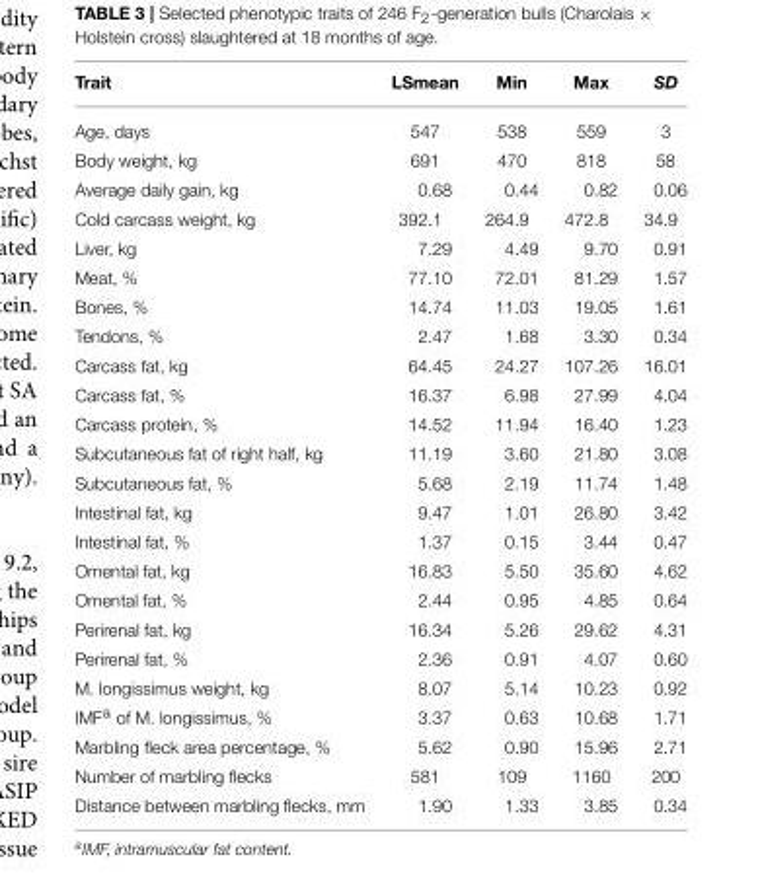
<table><thead><tr><td>Trait</td><td>LSmean</td><td>Min</td><td>Max</td><td>SD</td></tr></thead><tbody><tr><td>Age, days</td><td>547</td><td>538</td><td>559</td><td>3</td></tr><tr><td>Body weight, kg</td><td>691</td><td>470</td><td>818</td><td>58</td></tr><tr><td>Average daily gain, kg</td><td>0.68</td><td>0.44</td><td>0.82</td><td>0.06</td></tr><tr><td>Cold carcass weight, kg</td><td>392.1</td><td>264.9</td><td>472.8</td><td>34.9</td></tr><tr><td>Liver, kg</td><td>7.29</td><td>4.49</td><td>9.70</td><td>0.91</td></tr><tr><td>Meat, %</td><td>77.10</td><td>72.01</td><td>81.29</td><td>1.57</td></tr><tr><td>Bones, %</td><td>14.74</td><td>11.03</td><td>19.05</td><td>1.61</td></tr><tr><td>Tendons, %</td><td>2.47</td><td>1.68</td><td>3.30</td><td>0.34</td></tr><tr><td>Carcass fat, kg</td><td>64.45</td><td>24.27</td><td>107.26</td><td>16.01</td></tr><tr><td>Carcass fat, %</td><td>16.37</td><td>6.98</td><td>27.99</td><td>4.04</td></tr><tr><td>Carcass protein, %</td><td>14.52</td><td>11.94</td><td>16.40</td><td>1.23</td></tr><tr><td>Subcutaneous fat of right half, kg</td><td>11.19</td><td>3.60</td><td>21.80</td><td>3.08</td></tr><tr><td>Subcutaneous fat, %</td><td>5.68</td><td>2.19</td><td>11.74</td><td>1.48</td></tr><tr><td>Intestinal fat, kg</td><td>9.47</td><td>1.01</td><td>26.80</td><td>3.42</td></tr><tr><td>Intestinal fat, %</td><td>1.37</td><td>0.15</td><td>3.44</td><td>0.47</td></tr><tr><td>Omental fat, kg</td><td>16.83</td><td>5.50</td><td>35.60</td><td>4.62</td></tr><tr><td>Omental fat, %</td><td>2.44</td><td>0.95</td><td>4.85</td><td>0.64</td></tr><tr><td>Perirenal fat, kg</td><td>16.34</td><td>5.26</td><td>29.62</td><td>4.31</td></tr><tr><td>Perirenal fat, %</td><td>2.36</td><td>0.91</td><td>4.07</td><td>0.60</td></tr><tr><td>M. longissimus weight, kg</td><td>8.07</td><td>5.14</td><td>10.23</td><td>0.92</td></tr><tr><td>IMF<sup>a</sup> of M. longissimus, %</td><td>3.37</td><td>0.63</td><td>10.68</td><td>1.71</td></tr><tr><td>Marbling fleck area percentage, %</td><td>5.62</td><td>0.90</td><td>15.96</td><td>2.71</td></tr><tr><td>Number of marbling flecks</td><td>581</td><td>109</td><td>1160</td><td>200</td></tr><tr><td>Distance between marbling flecks, mm</td><td>1.90</td><td>1.33</td><td>3.85</td><td>0.34</td></tr></tbody></table>